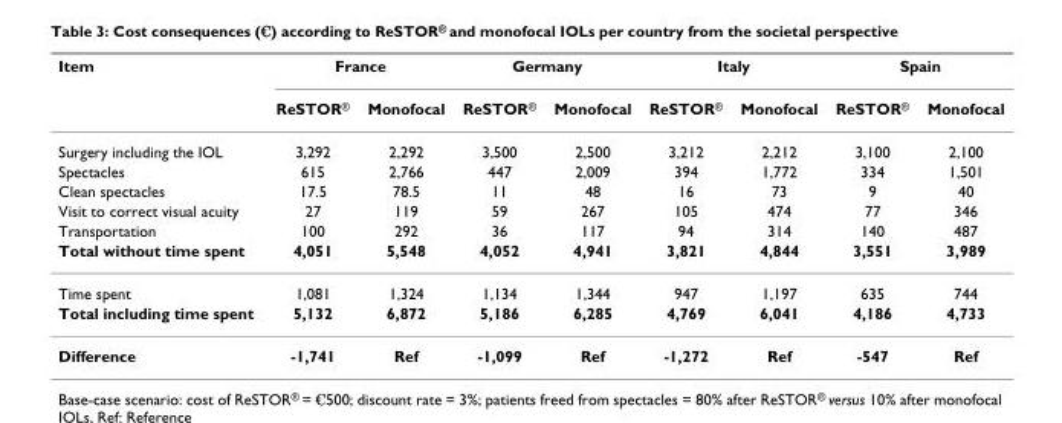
<table><thead><tr><td rowspan="2">Item</td><td colspan="2">France</td><td colspan="2">Germany</td><td colspan="2">Italy</td><td colspan="2">Spain</td></tr><tr><td>ReSTOR<sup>®</sup></td><td>Monofocal</td><td>ReSTOR<sup>®</sup></td><td>Monofocal</td><td>ReSTOR<sup>®</sup></td><td>Monofocal</td><td>ReSTOR<sup>®</sup></td><td>Monofocal</td></tr></thead><tbody><tr><td>Surgery including the IOL</td><td>3,292</td><td>2,292</td><td>3,500</td><td>2,500</td><td>3,212</td><td>2,212</td><td>3,100</td><td>2,100</td></tr><tr><td>Spectacles</td><td>615</td><td>2,766</td><td>447</td><td>2,009</td><td>394</td><td>1,772</td><td>334</td><td>1,501</td></tr><tr><td>Clean spectacles</td><td>17.5</td><td>78.5</td><td>11</td><td>48</td><td>16</td><td>73</td><td>9</td><td>40</td></tr><tr><td>Visit to correct visual acuity</td><td>27</td><td>119</td><td>59</td><td>267</td><td>105</td><td>474</td><td>77</td><td>346</td></tr><tr><td>Transportation</td><td>100</td><td>292</td><td>36</td><td>117</td><td>94</td><td>314</td><td>140</td><td>487</td></tr><tr><td>Total without time spent</td><td>4,051</td><td>5,548</td><td>4,052</td><td>4,941</td><td>3,821</td><td>4,844</td><td>3,551</td><td>3,989</td></tr><tr><td>Time spent</td><td>1,081</td><td>1,324</td><td>1,134</td><td>1,344</td><td>947</td><td>1,197</td><td>635</td><td>744</td></tr><tr><td>Total including time spent</td><td>5,132</td><td>6,872</td><td>5,186</td><td>6,285</td><td>4,769</td><td>6,041</td><td>4,186</td><td>4,733</td></tr><tr><td>Difference</td><td>-1,741</td><td>Ref</td><td>-1,099</td><td>Ref</td><td>-1,272</td><td>Ref</td><td>-547</td><td>Ref</td></tr></tbody></table>